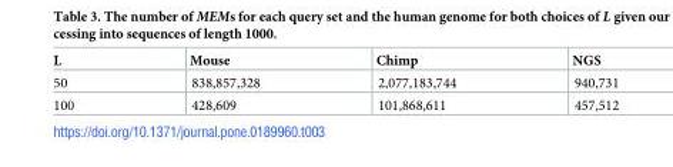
<table><thead><tr><td>L</td><td>Mouse</td><td>Chimp</td><td>NGS</td></tr></thead><tbody><tr><td>50</td><td>838,857,328</td><td>2,077,183,744</td><td>940,731</td></tr><tr><td>100</td><td>428,609</td><td>101,868,611</td><td>457,512</td></tr></tbody></table>